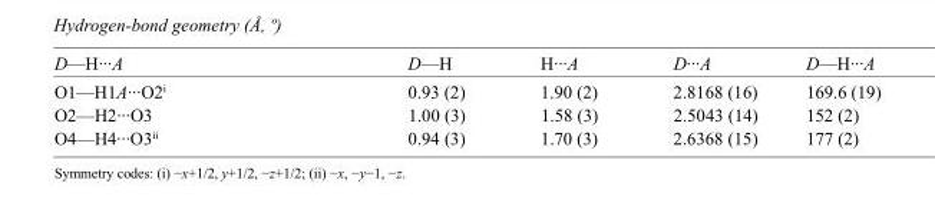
<table><tbody><tr><td>D—H···A</td><td>D—H</td><td>H···A</td><td>D···A</td><td>D—H···A</td></tr><tr><td>O1—H1A···O2<sup>i</sup></td><td>0.93 (2)</td><td>1.90 (2)</td><td>2.8168 (16)</td><td>169.6 (19)</td></tr><tr><td>O2—H2···O3</td><td>1.00 (3)</td><td>1.58 (3)</td><td>2.5043 (14)</td><td>152 (2)</td></tr><tr><td>O4—H4···O3<sup>ii</sup></td><td>0.94 (3)</td><td>1.70 (3)</td><td>2.6368 (15)</td><td>177 (2)</td></tr></tbody></table>